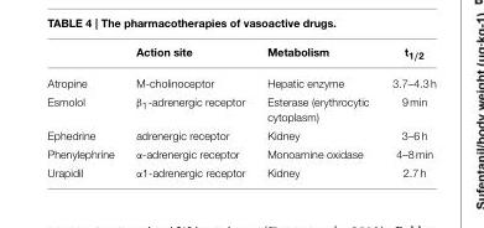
<table><thead><tr><td></td><td>Action site</td><td>Metabolism</td><td>t1/2</td></tr></thead><tbody><tr><td>Atropine</td><td>M-cholinoceptor</td><td>Hepatic enzyme</td><td>3.7–4.3 h</td></tr><tr><td>Esmolol</td><td>β<sub>1</sub>-adrenergic receptor</td><td>Esterase (erythrocytic cytoplasm)</td><td>9 min</td></tr><tr><td>Ephedrine</td><td>adrenergic receptor</td><td>Kidney</td><td>3–6 h</td></tr><tr><td>Phenylephrine</td><td>α-adrenergic receptor</td><td>Monoamine oxidase</td><td>4–8 min</td></tr><tr><td>Urapidil</td><td>α1-adrenergic receptor</td><td>Kidney</td><td>2.7 h</td></tr></tbody></table>